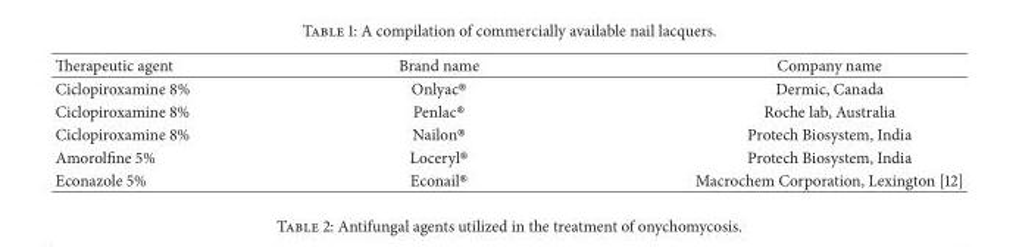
<table><thead><tr><td>Therapeutic agent</td><td>Brand name</td><td>Company name</td></tr></thead><tbody><tr><td>Ciclopiroxamine 8%</td><td>Onlyac®</td><td>Dermic, Canada</td></tr><tr><td>Ciclopiroxamine 8%</td><td>Penlac®</td><td>Roche lab, Australia</td></tr><tr><td>Ciclopiroxamine 8%</td><td>Nailon®</td><td>Protech Biosystem, India</td></tr><tr><td>Amorolfine 5%</td><td>Loceryl®</td><td>Protech Biosystem, India</td></tr><tr><td>Econazole 5%</td><td>Econail®</td><td>Macrochem Corporation, Lexington [12]</td></tr></tbody></table>